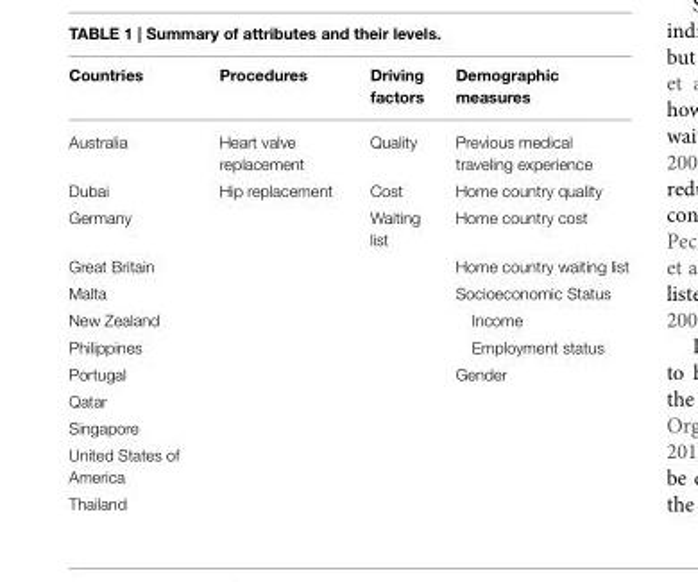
<table><thead><tr><td>Countries</td><td>Procedures</td><td>Driving factors</td><td>Demographic measures</td></tr></thead><tbody><tr><td>Australia</td><td>Heart valve replacement</td><td>Quality</td><td>Previous medical traveling experience</td></tr><tr><td>Dubai</td><td>Hip replacement</td><td>Cost</td><td>Home country quality</td></tr><tr><td>Germany</td><td></td><td>Waiting list</td><td>Home country cost</td></tr><tr><td>Great Britain</td><td></td><td></td><td>Home country waiting list</td></tr><tr><td>Malta</td><td></td><td></td><td>Socioeconomic Status</td></tr><tr><td>New Zealand</td><td></td><td></td><td>Income</td></tr><tr><td>Philippines</td><td></td><td></td><td>Employment status</td></tr><tr><td>Portugal</td><td></td><td></td><td>Gender</td></tr><tr><td colspan="4">Qatar</td></tr><tr><td colspan="4">Singapore</td></tr><tr><td colspan="4">United States of America</td></tr><tr><td>Thailand</td><td></td><td></td><td></td></tr></tbody></table>